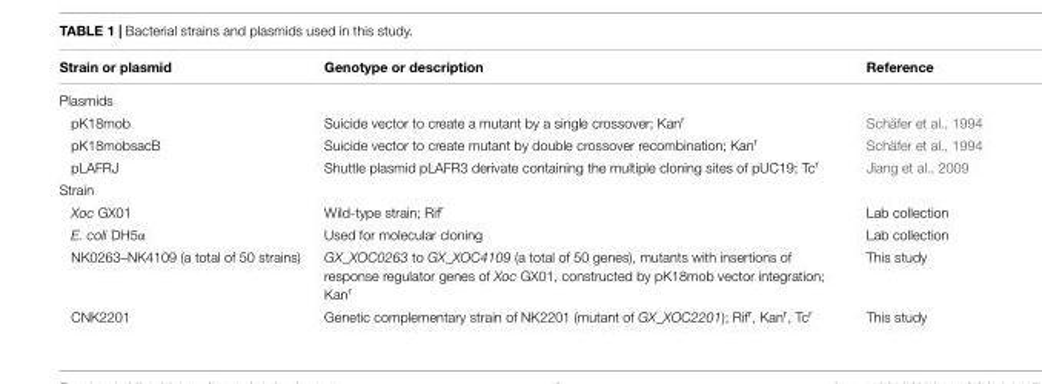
<table><thead><tr><td>Strain or plasmid</td><td>Genotype or description</td><td>Reference</td></tr></thead><tbody><tr><td colspan="3">Plasmids</td></tr><tr><td>pK18mob</td><td>Suicide vector to create a mutant by a single crossover; Kan<sup>r</sup></td><td>Schäfer et al., 1994</td></tr><tr><td>pK18mobsacB</td><td>Suicide vector to create mutant by double crossover recombination; Kan<sup>r</sup></td><td>Schäfer et al., 1994</td></tr><tr><td>pLAFRJ</td><td>Shuttle plasmid pLAFR3 derivate containing the multiple cloning sites of pUC19; Tc<sup>r</sup></td><td>Jiang et al., 2009</td></tr><tr><td colspan="3">Strain</td></tr><tr><td>Xoc GX01</td><td>Wild-type strain; Rif<sup>r</sup></td><td>Lab collection</td></tr><tr><td>E. coli DH5α</td><td>Used for molecular cloning</td><td>Lab collection</td></tr><tr><td>NK0263–NK4109 (a total of 50 strains)</td><td>GX_XOC0263 to GX_XOC4109 (a total of 50 genes), mutants with insertions of response regulator genes of Xoc GX01, constructed by pK18mob vector integration; Kan<sup>r</sup></td><td>This study</td></tr><tr><td>CNK2201</td><td>Genetic complementary strain of NK2201 (mutant of GX_XOC2201); Rif<sup>r</sup>, Kan<sup>r</sup>, Tc<sup>r</sup></td><td>This study</td></tr></tbody></table>